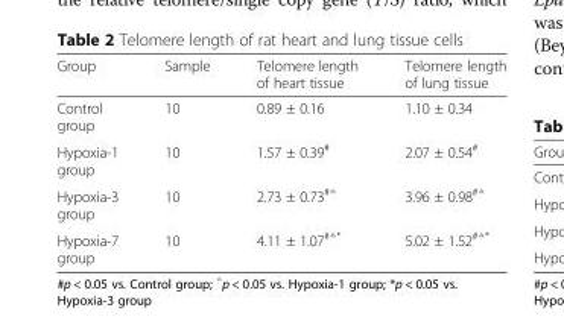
<table><thead><tr><td>Group</td><td>Sample</td><td>Telomere length of heart tissue</td><td>Telomere length of lung tissue</td></tr></thead><tbody><tr><td>Control group</td><td>10</td><td>0.89 ± 0.16</td><td>1.10 ± 0.34</td></tr><tr><td>Hypoxia-1 group</td><td>10</td><td>1.57 ± 0.39<sup>#</sup></td><td>2.07 ± 0.54<sup>#</sup></td></tr><tr><td>Hypoxia-3 group</td><td>10</td><td>2.73 ± 0.73<sup>#△</sup></td><td>3.96 ± 0.98<sup>#△</sup></td></tr><tr><td>Hypoxia-7 group</td><td>10</td><td>4.11 ± 1.07<sup>#△*</sup></td><td>5.02 ± 1.52<sup>#△*</sup></td></tr></tbody></table>